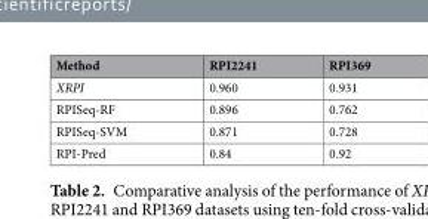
<table><thead><tr><td>Method</td><td>RPI2241</td><td>RPI369</td></tr></thead><tbody><tr><td>XRPI</td><td>0.960</td><td>0.931</td></tr><tr><td>RPISeq-RF</td><td>0.896</td><td>0.762</td></tr><tr><td>RPISeq-SVM</td><td>0.871</td><td>0.728</td></tr><tr><td>RPI-Pred</td><td>0.84</td><td>0.92</td></tr></tbody></table>